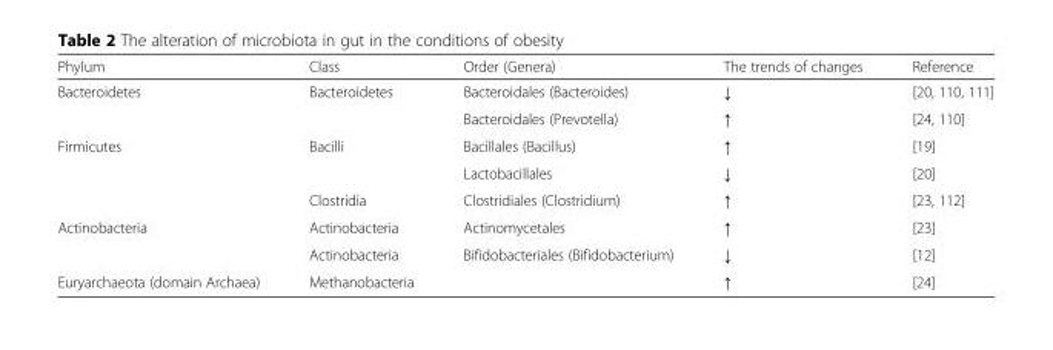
<table><thead><tr><td>Phylum</td><td>Class</td><td>Order (Genera)</td><td>The trends of changes</td><td>Reference</td></tr></thead><tbody><tr><td rowspan="2">Bacteroidetes</td><td rowspan="2">Bacteroidetes</td><td>Bacteroidales (Bacteroides)</td><td>↓</td><td>[20, 110, 111]</td></tr><tr><td>Bacteroidales (Prevotella)</td><td>↑</td><td>[24, 110]</td></tr><tr><td rowspan="3">Firmicutes</td><td rowspan="2">Bacilli</td><td>Bacillales (Bacillus)</td><td>↑</td><td>[19]</td></tr><tr><td>Lactobacillales</td><td>↓</td><td>[20]</td></tr><tr><td>Clostridia</td><td>Clostridiales (Clostridium)</td><td>↑</td><td>[23, 112]</td></tr><tr><td rowspan="2">Actinobacteria</td><td>Actinobacteria</td><td>Actinomycetales</td><td>↑</td><td>[23]</td></tr><tr><td>Actinobacteria</td><td>Bifidobacteriales (Bifidobacterium)</td><td>↓</td><td>[12]</td></tr><tr><td>Euryarchaeota (domain Archaea)</td><td>Methanobacteria</td><td></td><td>↑</td><td>[24]</td></tr></tbody></table>